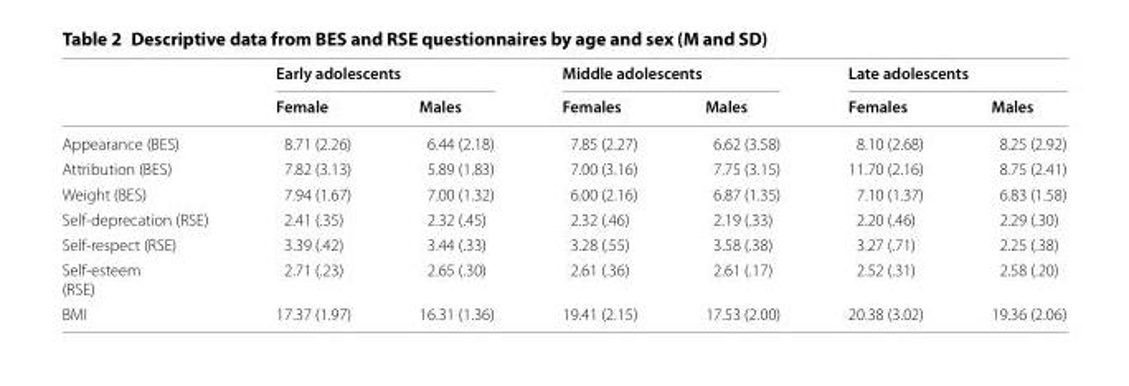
<table><thead><tr><td rowspan="2"></td><td colspan="2">Early adolescents</td><td colspan="2">Middle adolescents</td><td colspan="2">Late adolescents</td></tr><tr><td>Female</td><td>Males</td><td>Females</td><td>Males</td><td>Females</td><td>Males</td></tr></thead><tbody><tr><td>Appearance (BES)</td><td>8.71 (2.26)</td><td>6.44 (2.18)</td><td>7.85 (2.27)</td><td>6.62 (3.58)</td><td>8.10 (2.68)</td><td>8.25 (2.92)</td></tr><tr><td>Attribution (BES)</td><td>7.82 (3.13)</td><td>5.89 (1.83)</td><td>7.00 (3.16)</td><td>7.75 (3.15)</td><td>11.70 (2.16)</td><td>8.75 (2.41)</td></tr><tr><td>Weight (BES)</td><td>7.94 (1.67)</td><td>7.00 (1.32)</td><td>6.00 (2.16)</td><td>6.87 (1.35)</td><td>7.10 (1.37)</td><td>6.83 (1.58)</td></tr><tr><td>Self-deprecation (RSE)</td><td>2.41 (.35)</td><td>2.32 (.45)</td><td>2.32 (.46)</td><td>2.19 (.33)</td><td>2.20 (.46)</td><td>2.29 (.30)</td></tr><tr><td>Self-respect (RSE)</td><td>3.39 (.42)</td><td>3.44 (.33)</td><td>3.28 (.55)</td><td>3.58 (.38)</td><td>3.27 (.71)</td><td>2.25 (.38)</td></tr><tr><td>Self-esteem (RSE)</td><td>2.71 (.23)</td><td>2.65 (.30)</td><td>2.61 (.36)</td><td>2.61 (.17)</td><td>2.52 (.31)</td><td>2.58 (.20)</td></tr><tr><td>BMI</td><td>17.37 (1.97)</td><td>16.31 (1.36)</td><td>19.41 (2.15)</td><td>17.53 (2.00)</td><td>20.38 (3.02)</td><td>19.36 (2.06)</td></tr></tbody></table>